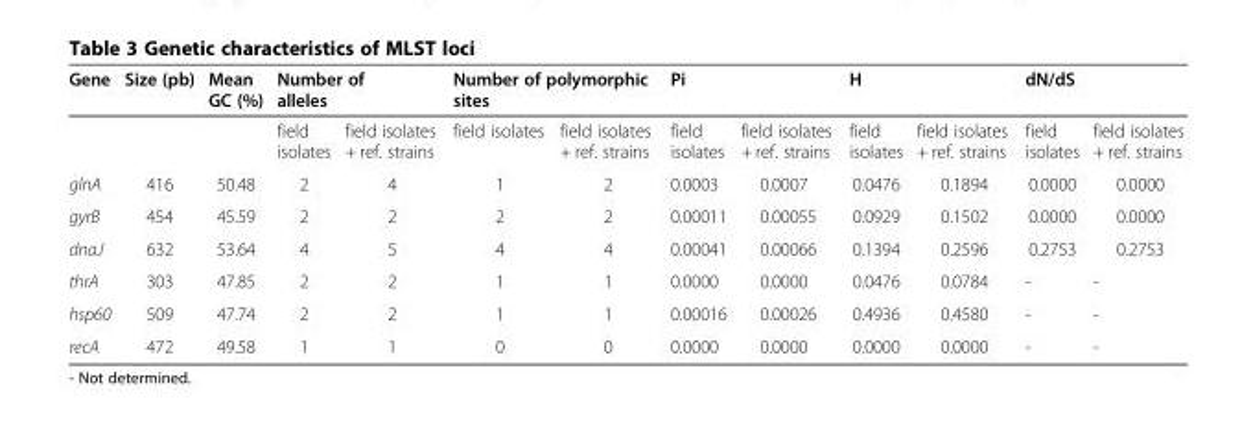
<table><thead><tr><td rowspan="2">Gene</td><td rowspan="2">Size (pb)</td><td rowspan="2">Mean GC (%)</td><td colspan="2">Number of alleles</td><td colspan="2">Number of polymorphic sites</td><td colspan="2">Pi</td><td colspan="2">H</td><td colspan="2">dN/dS</td></tr><tr><td>field isolates</td><td>field isolates + ref. strains</td><td>field isolates</td><td>field isolates + ref. strains</td><td>field isolates</td><td>field isolates + ref. strains</td><td>field isolates</td><td>field isolates + ref. strains</td><td>field isolates</td><td>field isolates + ref. strains</td></tr></thead><tbody><tr><td>glnA</td><td>416</td><td>50.48</td><td>2</td><td>4</td><td>1</td><td>2</td><td>0.0003</td><td>0.0007</td><td>0.0476</td><td>0.1894</td><td>0.0000</td><td>0.0000</td></tr><tr><td>gyrB</td><td>454</td><td>45.59</td><td>2</td><td>2</td><td>2</td><td>2</td><td>0.00011</td><td>0.00055</td><td>0.0929</td><td>0.1502</td><td>0.0000</td><td>0.0000</td></tr><tr><td>dnaJ</td><td>632</td><td>53.64</td><td>4</td><td>5</td><td>4</td><td>4</td><td>0.00041</td><td>0.00066</td><td>0.1394</td><td>0.2596</td><td>0.2753</td><td>0.2753</td></tr><tr><td>thrA</td><td>303</td><td>47.85</td><td>2</td><td>2</td><td>1</td><td>1</td><td>0.0000</td><td>0.0000</td><td>0.0476</td><td>0.0784</td><td>-</td><td>-</td></tr><tr><td>hsp60</td><td>509</td><td>47.74</td><td>2</td><td>2</td><td>1</td><td>1</td><td>0.00016</td><td>0.00026</td><td>0.4936</td><td>0.4580</td><td>-</td><td>-</td></tr><tr><td>recA</td><td>472</td><td>49.58</td><td>1</td><td>1</td><td>0</td><td>0</td><td>0.0000</td><td>0.0000</td><td>0.0000</td><td>0.0000</td><td>-</td><td>-</td></tr></tbody></table>